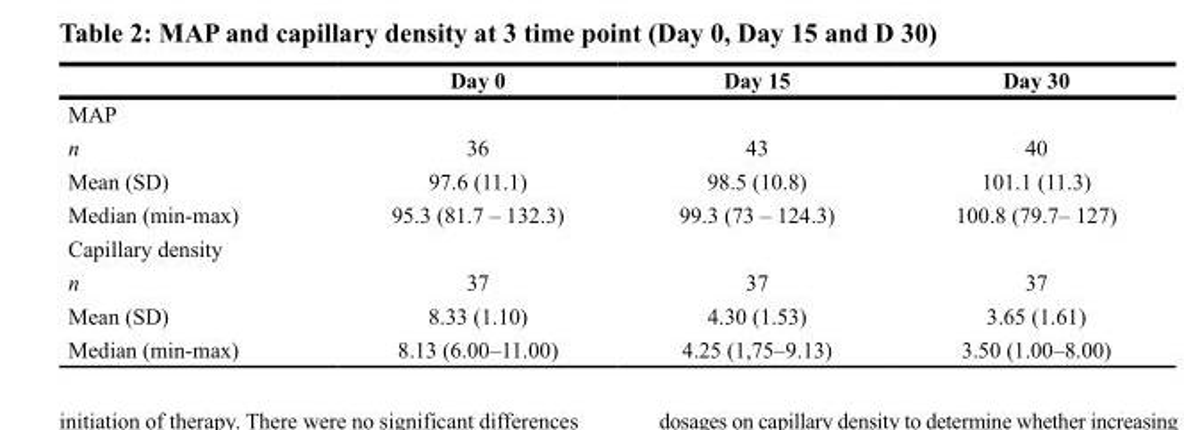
<table><thead><tr><td></td><td>Day 0</td><td>Day 15</td><td>Day 30</td></tr></thead><tbody><tr><td colspan="4">MAP</td></tr><tr><td>n</td><td>36</td><td>43</td><td>40</td></tr><tr><td>Mean (SD)</td><td>97.6 (11.1)</td><td>98.5 (10.8)</td><td>101.1 (11.3)</td></tr><tr><td>Median (min-max)</td><td>95.3 (81.7 – 132.3)</td><td>99.3 (73 – 124.3)</td><td>100.8 (79.7– 127)</td></tr><tr><td colspan="4">Capillary density</td></tr><tr><td>n</td><td>37</td><td>37</td><td>37</td></tr><tr><td>Mean (SD)</td><td>8.33 (1.10)</td><td>4.30 (1.53)</td><td>3.65 (1.61)</td></tr><tr><td>Median (min-max)</td><td>8.13 (6.00–11.00)</td><td>4.25 (1,75–9.13)</td><td>3.50 (1.00–8.00)</td></tr></tbody></table>